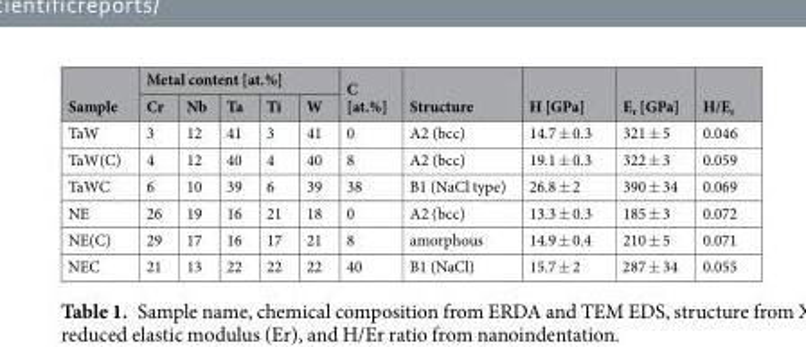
<table><thead><tr><td rowspan="2">Sample</td><td colspan="5">Metal content [at.%]</td><td rowspan="2">C [at.%]</td><td rowspan="2">Structure</td><td rowspan="2">H [GPa]</td><td rowspan="2">E<sub>r</sub> [GPa]</td><td rowspan="2">H/E<sub>r</sub></td></tr><tr><td>Cr</td><td>Nb</td><td>Ta</td><td>Ti</td><td>W</td></tr></thead><tbody><tr><td>TaW</td><td>3</td><td>12</td><td>41</td><td>3</td><td>41</td><td>0</td><td>A2 (bcc)</td><td>14.7 ± 0.3</td><td>321 ± 5</td><td>0.046</td></tr><tr><td>TaW(C)</td><td>4</td><td>12</td><td>40</td><td>4</td><td>40</td><td>8</td><td>A2 (bcc)</td><td>19.1 ± 0.3</td><td>322 ± 3</td><td>0.059</td></tr><tr><td>TaWC</td><td>6</td><td>10</td><td>39</td><td>6</td><td>39</td><td>38</td><td>B1 (NaCl type)</td><td>26.8 ± 2</td><td>390 ± 34</td><td>0.069</td></tr><tr><td>NE</td><td>26</td><td>19</td><td>16</td><td>21</td><td>18</td><td>0</td><td>A2 (bcc)</td><td>13.3 ± 0.3</td><td>185 ± 3</td><td>0.072</td></tr><tr><td>NE(C)</td><td>29</td><td>17</td><td>16</td><td>17</td><td>21</td><td>8</td><td>amorphous</td><td>14.9 ± 0.4</td><td>210 ± 5</td><td>0.071</td></tr><tr><td>NEC</td><td>21</td><td>13</td><td>22</td><td>22</td><td>22</td><td>40</td><td>B1 (NaCl)</td><td>15.7 ± 2</td><td>287 ± 34</td><td>0.055</td></tr></tbody></table>